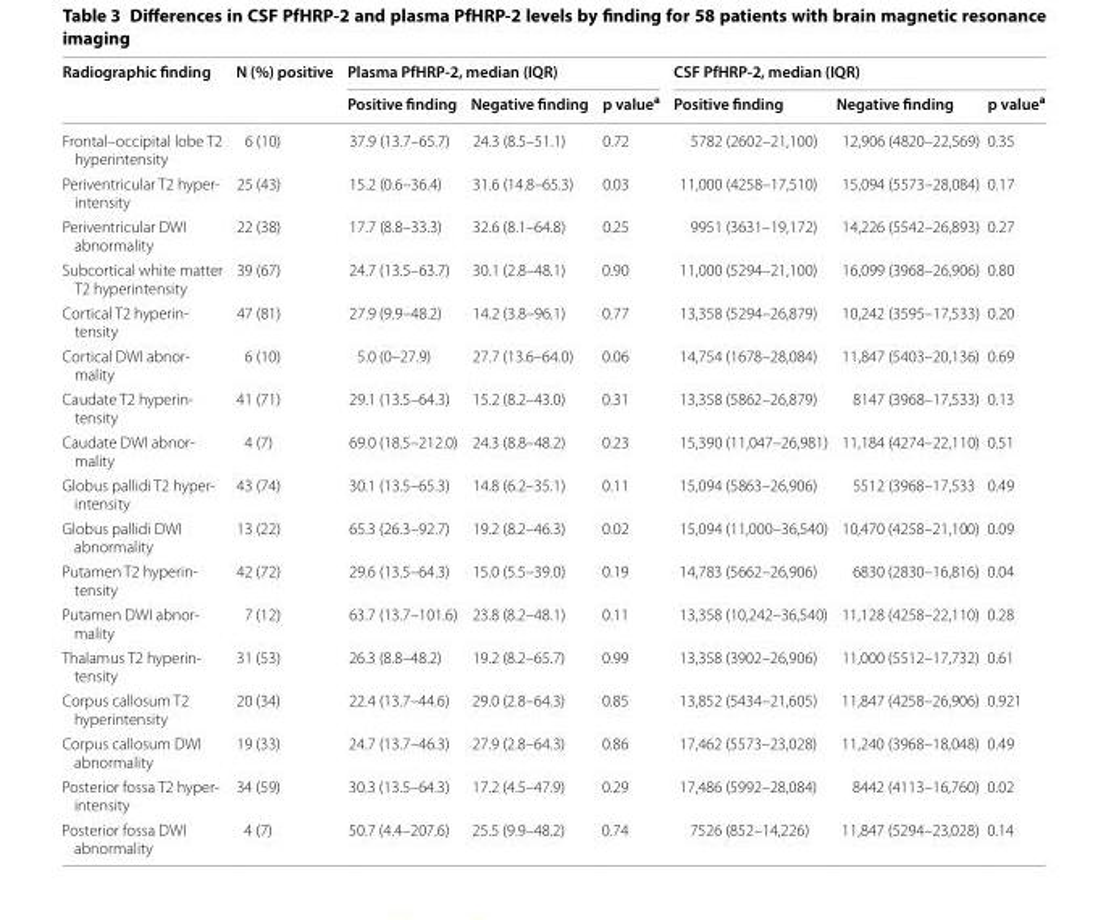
<table><thead><tr><td rowspan="2">Radiographic finding</td><td rowspan="2">N (%) positive</td><td colspan="3">Plasma PfHRP‑2, median (IQR)</td><td colspan="3">CSF PfHRP‑2, median (IQR)</td></tr><tr><td>Positive finding</td><td>Negative finding</td><td>p value<sup>a</sup></td><td>Positive finding</td><td>Negative finding</td><td>p value<sup>a</sup></td></tr></thead><tbody><tr><td>Frontal–occipital lobe T2 hyperintensity</td><td>6 (10)</td><td>37.9 (13.7–65.7)</td><td>24.3 (8.5–51.1)</td><td>0.72</td><td>5782 (2602–21,100)</td><td>12,906 (4820–22,569)</td><td>0.35</td></tr><tr><td>Periventricular T2 hyper- intensity</td><td>25 (43)</td><td>15.2 (0.6–36.4)</td><td>31.6 (14.8–65.3)</td><td>0.03</td><td>11,000 (4258–17,510)</td><td>15,094 (5573–28,084)</td><td>0.17</td></tr><tr><td>Periventricular DWI abnormality</td><td>22 (38)</td><td>17.7 (8.8–33.3)</td><td>32.6 (8.1–64.8)</td><td>0.25</td><td>9951 (3631–19,172)</td><td>14,226 (5542–26,893)</td><td>0.27</td></tr><tr><td>Subcortical white matter T2 hyperintensity</td><td>39 (67)</td><td>24.7 (13.5–63.7)</td><td>30.1 (2.8–48.1)</td><td>0.90</td><td>11,000 (5294–21,100)</td><td>16,099 (3968–26,906)</td><td>0.80</td></tr><tr><td>Cortical T2 hyperin- tensity</td><td>47 (81)</td><td>27.9 (9.9–48.2)</td><td>14.2 (3.8–96.1)</td><td>0.77</td><td>13,358 (5294–26,879)</td><td>10,242 (3595–17,533)</td><td>0.20</td></tr><tr><td>Cortical DWI abnor- mality</td><td>6 (10)</td><td>5.0 (0–27.9)</td><td>27.7 (13.6–64.0)</td><td>0.06</td><td>14,754 (1678–28,084)</td><td>11,847 (5403–20,136)</td><td>0.69</td></tr><tr><td>Caudate T2 hyperin- tensity</td><td>41 (71)</td><td>29.1 (13.5–64.3)</td><td>15.2 (8.2–43.0)</td><td>0.31</td><td>13,358 (5862–26,879)</td><td>8147 (3968–17,533)</td><td>0.13</td></tr><tr><td>Caudate DWI abnor- mality</td><td>4 (7)</td><td>69.0 (18.5–212.0)</td><td>24.3 (8.8–48.2)</td><td>0.23</td><td>15,390 (11,047–26,981)</td><td>11,184 (4274–22,110)</td><td>0.51</td></tr><tr><td>Globus pallidi T2 hyper- intensity</td><td>43 (74)</td><td>30.1 (13.5–65.3)</td><td>14.8 (6.2–35.1)</td><td>0.11</td><td>15,094 (5863–26,906)</td><td>5512 (3968–17,533</td><td>0.49</td></tr><tr><td>Globus pallidi DWI abnormality</td><td>13 (22)</td><td>65.3 (26.3–92.7)</td><td>19.2 (8.2–46.3)</td><td>0.02</td><td>15,094 (11,000–36,540)</td><td>10,470 (4258–21,100)</td><td>0.09</td></tr><tr><td>Putamen T2 hyperin- tensity</td><td>42 (72)</td><td>29.6 (13.5–64.3)</td><td>15.0 (5.5–39.0)</td><td>0.19</td><td>14,783 (5662–26,906)</td><td>6830 (2830–16,816)</td><td>0.04</td></tr><tr><td>Putamen DWI abnor- mality</td><td>7 (12)</td><td>63.7 (13.7–101.6)</td><td>23.8 (8.2–48.1)</td><td>0.11</td><td>13,358 (10,242–36,540)</td><td>11,128 (4258–22,110)</td><td>0.28</td></tr><tr><td>Thalamus T2 hyperin- tensity</td><td>31 (53)</td><td>26.3 (8.8–48.2)</td><td>19.2 (8.2–65.7)</td><td>0.99</td><td>13,358 (3902–26,906)</td><td>11,000 (5512–17,732)</td><td>0.61</td></tr><tr><td>Corpus callosum T2 hyperintensity</td><td>20 (34)</td><td>22.4 (13.7–44.6)</td><td>29.0 (2.8–64.3)</td><td>0.85</td><td>13,852 (5434–21,605)</td><td>11,847 (4258–26,906)</td><td>0.921</td></tr><tr><td>Corpus callosum DWI abnormality</td><td>19 (33)</td><td>24.7 (13.7–46.3)</td><td>27.9 (2.8–64.3)</td><td>0.86</td><td>17,462 (5573–23,028)</td><td>11,240 (3968–18,048)</td><td>0.49</td></tr><tr><td>Posterior fossa T2 hyper- intensity</td><td>34 (59)</td><td>30.3 (13.5–64.3)</td><td>17.2 (4.5–47.9)</td><td>0.29</td><td>17,486 (5992–28,084)</td><td>8442 (4113–16,760)</td><td>0.02</td></tr><tr><td>Posterior fossa DWI abnormality</td><td>4 (7)</td><td>50.7 (4.4–207.6)</td><td>25.5 (9.9–48.2)</td><td>0.74</td><td>7526 (852–14,226)</td><td>11,847 (5294–23,028)</td><td>0.14</td></tr></tbody></table>